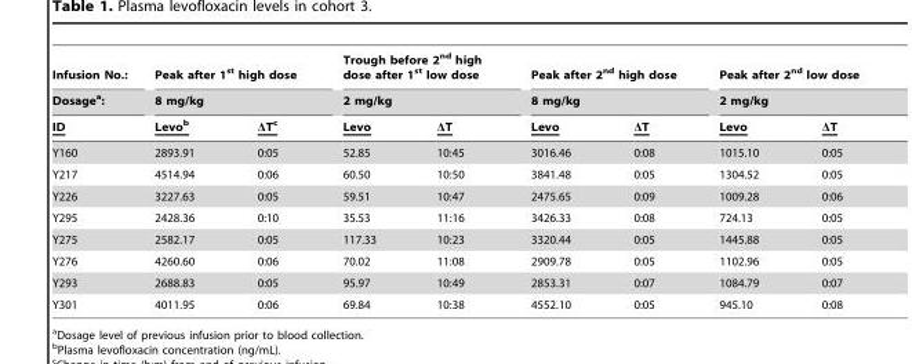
<table><thead><tr><td rowspan="3">Infusion No.: Dosage<sup>a</sup>: ID</td><td rowspan="2" colspan="2">Peak after 1<sup>st</sup> high dose 8 mg/kg</td><td rowspan="2" colspan="2">Trough before 2<sup>nd</sup> high dose after 1<sup>st</sup> low dose 2 mg/kg</td><td rowspan="2" colspan="2">Peak after 2<sup>nd</sup> high dose 8 mg/kg</td><td rowspan="2" colspan="2">Peak after 2<sup>nd</sup> low dose 2 mg/kg</td></tr><tr></tr><tr><td>Levob</td><td>ΔTc</td><td>Levo</td><td>ΔT</td><td>Levo</td><td>ΔT</td><td>Levo</td><td>ΔT</td></tr></thead><tbody><tr><td>Y160</td><td>2893.91</td><td>0:05</td><td>52.85</td><td>10:45</td><td>3016.46</td><td>0:08</td><td>1015.10</td><td>0:05</td></tr><tr><td>Y217</td><td>4514.94</td><td>0:06</td><td>60.50</td><td>10:50</td><td>3841.48</td><td>0:05</td><td>1304.52</td><td>0:05</td></tr><tr><td>Y226</td><td>3227.63</td><td>0:05</td><td>59.51</td><td>10:47</td><td>2475.65</td><td>0:09</td><td>1009.28</td><td>0:06</td></tr><tr><td>Y295</td><td>2428.36</td><td>0:10</td><td>35.53</td><td>11:16</td><td>3426.33</td><td>0:08</td><td>724.13</td><td>0:05</td></tr><tr><td>Y275</td><td>2582.17</td><td>0:05</td><td>117.33</td><td>10:23</td><td>3320.44</td><td>0:05</td><td>1445.88</td><td>0:05</td></tr><tr><td>Y276</td><td>4260.60</td><td>0:06</td><td>70.02</td><td>11:08</td><td>2909.78</td><td>0:05</td><td>1102.96</td><td>0:05</td></tr><tr><td>Y293</td><td>2688.83</td><td>0:05</td><td>95.97</td><td>10:49</td><td>2853.31</td><td>0:07</td><td>1084.79</td><td>0:07</td></tr><tr><td>Y301</td><td>4011.95</td><td>0:06</td><td>69.84</td><td>10:38</td><td>4552.10</td><td>0:05</td><td>945.10</td><td>0:08</td></tr></tbody></table>